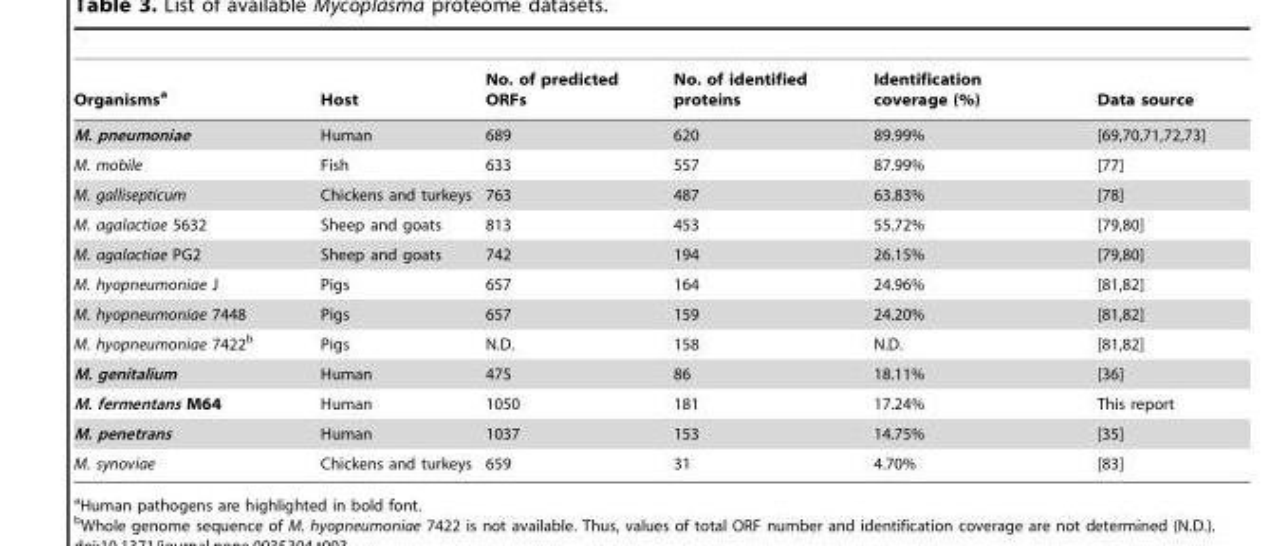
<table><thead><tr><td>Organisms<sup>a</sup></td><td>Host</td><td>No. of predicted ORFs</td><td>No. of identified proteins</td><td>Identification coverage (%)</td><td>Data source</td></tr></thead><tbody><tr><td>M. pneumoniae</td><td>Human</td><td>689</td><td>620</td><td>89.99%</td><td>[69,70,71,72,73]</td></tr><tr><td>M. mobile</td><td>Fish</td><td>633</td><td>557</td><td>87.99%</td><td>[77]</td></tr><tr><td>M. gallisepticum</td><td>Chickens and turkeys</td><td>763</td><td>487</td><td>63.83%</td><td>[78]</td></tr><tr><td>M. agalactiae 5632</td><td>Sheep and goats</td><td>813</td><td>453</td><td>55.72%</td><td>[79,80]</td></tr><tr><td>M. agalactiae PG2</td><td>Sheep and goats</td><td>742</td><td>194</td><td>26.15%</td><td>[79,80]</td></tr><tr><td>M. hyopneumoniae J</td><td>Pigs</td><td>657</td><td>164</td><td>24.96%</td><td>[81,82]</td></tr><tr><td>M. hyopneumoniae 7448</td><td>Pigs</td><td>657</td><td>159</td><td>24.20%</td><td>[81,82]</td></tr><tr><td>M. hyopneumoniae 7422<sup>b</sup></td><td>Pigs</td><td>N.D.</td><td>158</td><td>N.D.</td><td>[81,82]</td></tr><tr><td>M. genitalium</td><td>Human</td><td>475</td><td>86</td><td>18.11%</td><td>[36]</td></tr><tr><td>M. fermentans M64</td><td>Human</td><td>1050</td><td>181</td><td>17.24%</td><td>This report</td></tr><tr><td>M. penetrans</td><td>Human</td><td>1037</td><td>153</td><td>14.75%</td><td>[35]</td></tr><tr><td>M. synoviae</td><td>Chickens and turkeys</td><td>659</td><td>31</td><td>4.70%</td><td>[83]</td></tr></tbody></table>